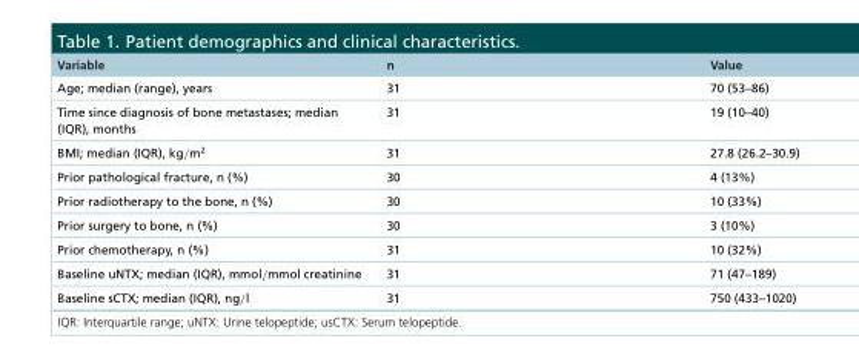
<table><thead><tr><td>Variable</td><td>n</td><td>Value</td></tr></thead><tbody><tr><td>Age; median (range), years</td><td>31</td><td>70 (53–86)</td></tr><tr><td>Time since diagnosis of bone metastases; median (IQR), months</td><td>31</td><td>19 (10–40)</td></tr><tr><td>BMI; median (IQR), kg/m<sup>2</sup></td><td>31</td><td>27.8 (26.2–30.9)</td></tr><tr><td>Prior pathological fracture, n (%)</td><td>30</td><td>4 (13%)</td></tr><tr><td>Prior radiotherapy to the bone, n (%)</td><td>30</td><td>10 (33%)</td></tr><tr><td>Prior surgery to bone, n (%)</td><td>30</td><td>3 (10%)</td></tr><tr><td>Prior chemotherapy, n (%)</td><td>31</td><td>10 (32%)</td></tr><tr><td>Baseline uNTX; median (IQR), mmol/mmol creatinine</td><td>31</td><td>71 (47–189)</td></tr><tr><td>Baseline sCTX; median (IQR), ng/l</td><td>31</td><td>750 (433–1020)</td></tr></tbody></table>